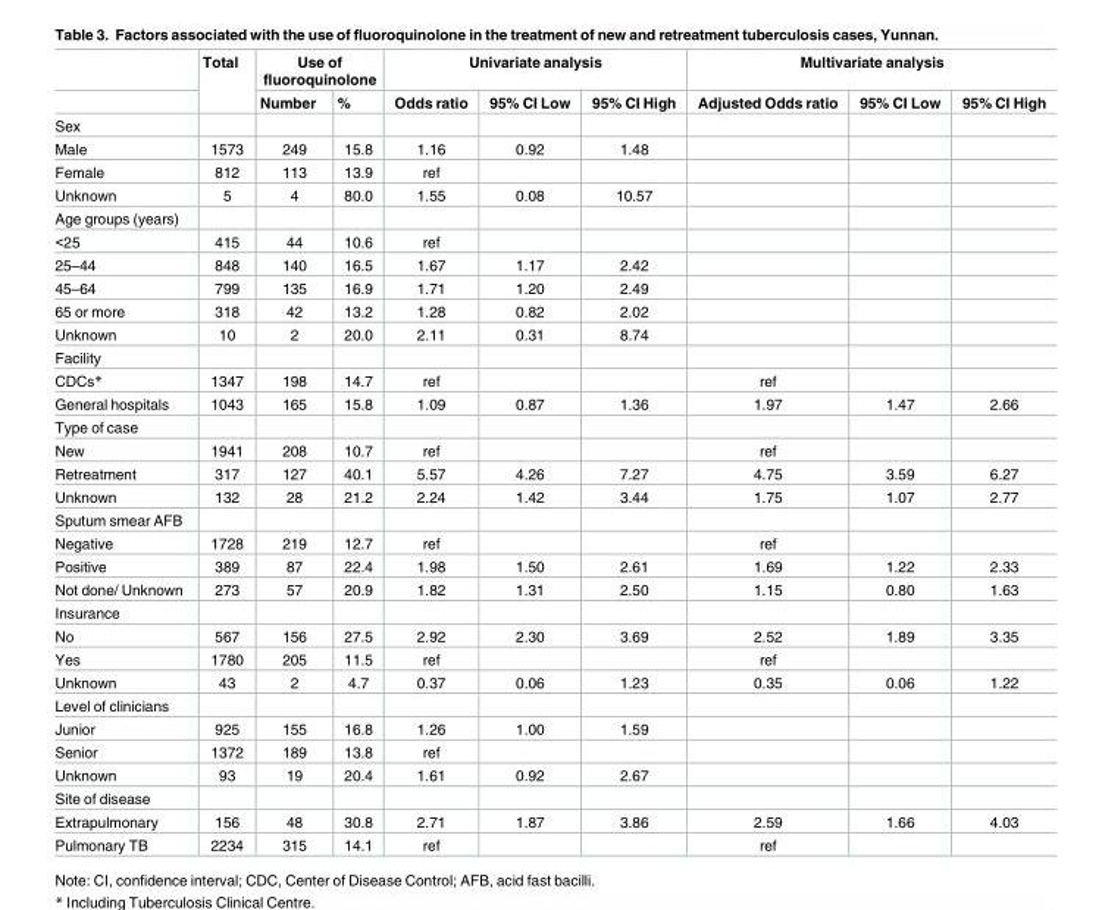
<table><thead><tr><td rowspan="2"></td><td rowspan="2">Total</td><td colspan="2">Use of fluoroquinolone</td><td colspan="3">Univariate analysis</td><td colspan="3">Multivariate analysis</td></tr><tr><td>Number</td><td>%</td><td>Odds ratio</td><td>95% CI Low</td><td>95% CI High</td><td>Adjusted Odds ratio</td><td>95% CI Low</td><td>95% CI High</td></tr></thead><tbody><tr><td colspan="10">Sex</td></tr><tr><td>Male</td><td>1573</td><td>249</td><td>15.8</td><td>1.16</td><td>0.92</td><td>1.48</td><td></td><td></td><td></td></tr><tr><td>Female</td><td>812</td><td>113</td><td>13.9</td><td>ref</td><td></td><td></td><td></td><td></td><td></td></tr><tr><td>Unknown</td><td>5</td><td>4</td><td>80.0</td><td>1.55</td><td>0.08</td><td>10.57</td><td></td><td></td><td></td></tr><tr><td colspan="10">Age groups (years)</td></tr><tr><td>&lt;25</td><td>415</td><td>44</td><td>10.6</td><td>ref</td><td></td><td></td><td></td><td></td><td></td></tr><tr><td>25–44</td><td>848</td><td>140</td><td>16.5</td><td>1.67</td><td>1.17</td><td>2.42</td><td></td><td></td><td></td></tr><tr><td>45–64</td><td>799</td><td>135</td><td>16.9</td><td>1.71</td><td>1.20</td><td>2.49</td><td></td><td></td><td></td></tr><tr><td>65 or more</td><td>318</td><td>42</td><td>13.2</td><td>1.28</td><td>0.82</td><td>2.02</td><td></td><td></td><td></td></tr><tr><td>Unknown</td><td>10</td><td>2</td><td>20.0</td><td>2.11</td><td>0.31</td><td>8.74</td><td></td><td></td><td></td></tr><tr><td colspan="10">Facility</td></tr><tr><td>CDCs*</td><td>1347</td><td>198</td><td>14.7</td><td>ref</td><td></td><td></td><td>ref</td><td></td><td></td></tr><tr><td>General hospitals</td><td>1043</td><td>165</td><td>15.8</td><td>1.09</td><td>0.87</td><td>1.36</td><td>1.97</td><td>1.47</td><td>2.66</td></tr><tr><td colspan="10">Type of case</td></tr><tr><td>New</td><td>1941</td><td>208</td><td>10.7</td><td>ref</td><td></td><td></td><td>ref</td><td></td><td></td></tr><tr><td>Retreatment</td><td>317</td><td>127</td><td>40.1</td><td>5.57</td><td>4.26</td><td>7.27</td><td>4.75</td><td>3.59</td><td>6.27</td></tr><tr><td>Unknown</td><td>132</td><td>28</td><td>21.2</td><td>2.24</td><td>1.42</td><td>3.44</td><td>1.75</td><td>1.07</td><td>2.77</td></tr><tr><td colspan="10">Sputum smear AFB</td></tr><tr><td>Negative</td><td>1728</td><td>219</td><td>12.7</td><td>ref</td><td></td><td></td><td>ref</td><td></td><td></td></tr><tr><td>Positive</td><td>389</td><td>87</td><td>22.4</td><td>1.98</td><td>1.50</td><td>2.61</td><td>1.69</td><td>1.22</td><td>2.33</td></tr><tr><td>Not done/ Unknown</td><td>273</td><td>57</td><td>20.9</td><td>1.82</td><td>1.31</td><td>2.50</td><td>1.15</td><td>0.80</td><td>1.63</td></tr><tr><td colspan="10">Insurance</td></tr><tr><td>No</td><td>567</td><td>156</td><td>27.5</td><td>2.92</td><td>2.30</td><td>3.69</td><td>2.52</td><td>1.89</td><td>3.35</td></tr><tr><td>Yes</td><td>1780</td><td>205</td><td>11.5</td><td>ref</td><td></td><td></td><td>ref</td><td></td><td></td></tr><tr><td>Unknown</td><td>43</td><td>2</td><td>4.7</td><td>0.37</td><td>0.06</td><td>1.23</td><td>0.35</td><td>0.06</td><td>1.22</td></tr><tr><td colspan="10">Level of clinicians</td></tr><tr><td>Junior</td><td>925</td><td>155</td><td>16.8</td><td>1.26</td><td>1.00</td><td>1.59</td><td></td><td></td><td></td></tr><tr><td>Senior</td><td>1372</td><td>189</td><td>13.8</td><td>ref</td><td></td><td></td><td></td><td></td><td></td></tr><tr><td>Unknown</td><td>93</td><td>19</td><td>20.4</td><td>1.61</td><td>0.92</td><td>2.67</td><td></td><td></td><td></td></tr><tr><td colspan="10">Site of disease</td></tr><tr><td>Extrapulmonary</td><td>156</td><td>48</td><td>30.8</td><td>2.71</td><td>1.87</td><td>3.86</td><td>2.59</td><td>1.66</td><td>4.03</td></tr><tr><td>Pulmonary TB</td><td>2234</td><td>315</td><td>14.1</td><td>ref</td><td></td><td></td><td>ref</td><td></td><td></td></tr></tbody></table>